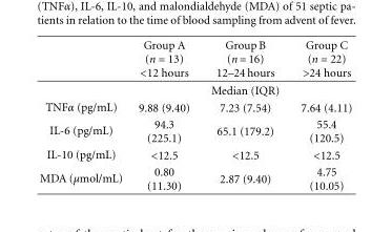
<table><thead><tr><td></td><td>Group A (n = 13) &lt;12 hours</td><td>Group B (n = 16) 12–24 hours</td><td>Group C (n = 22) &gt;24 hours</td></tr></thead><tbody><tr><td></td><td></td><td>Median (IQR)</td><td></td></tr><tr><td>TNFα (pg/mL)</td><td>9.88 (9.40)</td><td>7.23 (7.54)</td><td>7.64 (4.11)</td></tr><tr><td>IL-6 (pg/mL)</td><td>94.3 (225.1)</td><td>65.1 (179.2)</td><td>55.4 (120.5)</td></tr><tr><td>IL-10 (pg/mL)</td><td>&lt;12.5</td><td>&lt;12.5</td><td>&lt;12.5</td></tr><tr><td>MDA (μmol/mL)</td><td>0.80 (11.30)</td><td>2.87 (9.40)</td><td>4.75 (10.05)</td></tr></tbody></table>